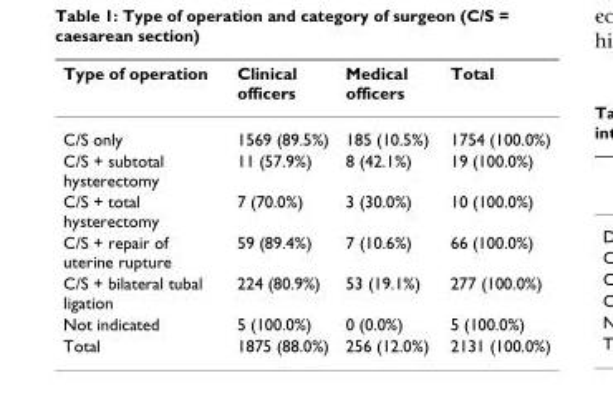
<table><thead><tr><td>Type of operation</td><td>Clinical officers</td><td>Medical officers</td><td>Total</td></tr></thead><tbody><tr><td>C/S only</td><td>1569 (89.5%)</td><td>185 (10.5%)</td><td>1754 (100.0%)</td></tr><tr><td>C/S + subtotal hysterectomy</td><td>11 (57.9%)</td><td>8 (42.1%)</td><td>19 (100.0%)</td></tr><tr><td>C/S + total hysterectomy</td><td>7 (70.0%)</td><td>3 (30.0%)</td><td>10 (100.0%)</td></tr><tr><td>C/S + repair of uterine rupture</td><td>59 (89.4%)</td><td>7 (10.6%)</td><td>66 (100.0%)</td></tr><tr><td>C/S + bilateral tubal ligation</td><td>224 (80.9%)</td><td>53 (19.1%)</td><td>277 (100.0%)</td></tr><tr><td>Not indicated</td><td>5 (100.0%)</td><td>0 (0.0%)</td><td>5 (100.0%)</td></tr><tr><td>Total</td><td>1875 (88.0%)</td><td>256 (12.0%)</td><td>2131 (100.0%)</td></tr></tbody></table>